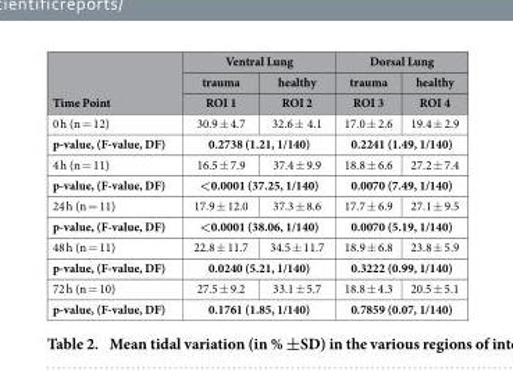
<table><thead><tr><td rowspan="3">Time Point</td><td colspan="2">Ventral Lung</td><td colspan="2">Dorsal Lung</td></tr><tr><td rowspan="2">trauma ROI 1</td><td rowspan="2">healthy ROI 2</td><td rowspan="2">trauma ROI 3</td><td rowspan="2">healthy ROI 4</td></tr><tr></tr></thead><tbody><tr><td>0 h (n = 12)</td><td>30.9 ± 4.7</td><td>32.6 ± 4.1</td><td>17.0 ± 2.6</td><td>19.4 ± 2.9</td></tr><tr><td>p-value, (F-value, DF)</td><td colspan="2">0.2738 (1.21, 1/140)</td><td colspan="2">0.2241 (1.49, 1/140)</td></tr><tr><td>4 h (n = 11)</td><td>16.5 ± 7.9</td><td>37.4 ± 9.9</td><td>18.8 ± 6.6</td><td>27.2 ± 7.4</td></tr><tr><td>p-value, (F-value, DF)</td><td colspan="2">&lt;0.0001 (37.25, 1/140)</td><td colspan="2">0.0070 (7.49, 1/140)</td></tr><tr><td>24 h (n = 11)</td><td>17.9 ± 12.0</td><td>37.3 ± 8.6</td><td>17.7 ± 6.9</td><td>27.1 ± 9.5</td></tr><tr><td>p-value, (F-value, DF)</td><td colspan="2">&lt;0.0001 (38.06, 1/140)</td><td colspan="2">0.0070 (5.19, 1/140)</td></tr><tr><td>48 h (n = 11)</td><td>22.8 ± 11.7</td><td>34.5 ± 11.7</td><td>18.9 ± 6.8</td><td>23.8 ± 5.9</td></tr><tr><td>p-value, (F-value, DF)</td><td colspan="2">0.0240 (5.21, 1/140)</td><td colspan="2">0.3222 (0.99, 1/140)</td></tr><tr><td>72 h (n = 10)</td><td>27.5 ± 9.2</td><td>33.1 ± 5.7</td><td>18.8 ± 4.3</td><td>20.5 ± 5.1</td></tr><tr><td>p-value, (F-value, DF)</td><td colspan="2">0.1761 (1.85, 1/140)</td><td colspan="2">0.7859 (0.07, 1/140)</td></tr></tbody></table>